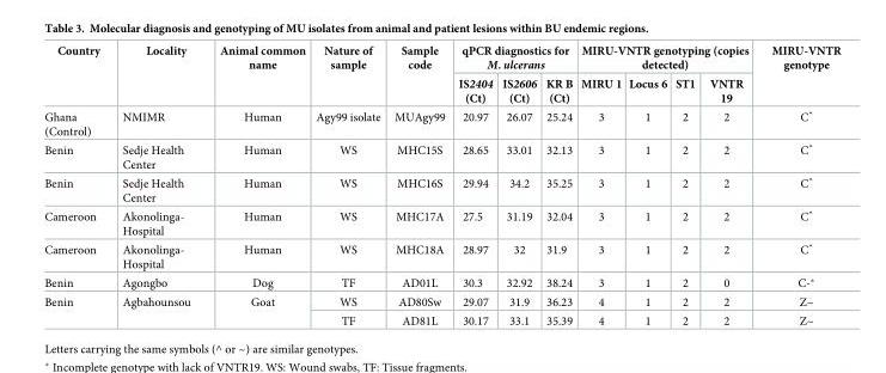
<table><thead><tr><td rowspan="2">Country</td><td rowspan="2">Locality</td><td rowspan="2">Animal common name</td><td rowspan="2">Nature of sample</td><td rowspan="2">Sample code</td><td colspan="3">qPCR diagnostics for M. ulcerans</td><td colspan="4">MIRU-VNTR genotyping (copies detected)</td><td rowspan="2">MIRU-VNTR genotype</td></tr><tr><td>IS2404 (Ct)</td><td>IS2606 (Ct)</td><td>KR B (Ct)</td><td>MIRU 1</td><td>Locus 6</td><td>ST1</td><td>VNTR 19</td></tr></thead><tbody><tr><td>Ghana (Control)</td><td>NMIMR</td><td>Human</td><td>Agy99 isolate</td><td>MUAgy99</td><td>20.97</td><td>26.07</td><td>25.24</td><td>3</td><td>1</td><td>2</td><td>2</td><td>Cˆ</td></tr><tr><td>Benin</td><td>Sedje Health Center</td><td>Human</td><td>WS</td><td>MHC15S</td><td>28.65</td><td>33.01</td><td>32.13</td><td>3</td><td>1</td><td>2</td><td>2</td><td>Cˆ</td></tr><tr><td>Benin</td><td>Sedje Health Center</td><td>Human</td><td>WS</td><td>MHC16S</td><td>29.94</td><td>34.2</td><td>35.25</td><td>3</td><td>1</td><td>2</td><td>2</td><td>Cˆ</td></tr><tr><td>Cameroon</td><td>Akonolinga- Hospital</td><td>Human</td><td>WS</td><td>MHC17A</td><td>27.5</td><td>31.19</td><td>32.04</td><td>3</td><td>1</td><td>2</td><td>2</td><td>Cˆ</td></tr><tr><td>Cameroon</td><td>Akonolinga- Hospital</td><td>Human</td><td>WS</td><td>MHC18A</td><td>28.97</td><td>32</td><td>31.9</td><td>3</td><td>1</td><td>2</td><td>2</td><td>Cˆ</td></tr><tr><td>Benin</td><td>Agongbo</td><td>Dog</td><td>TF</td><td>AD01L</td><td>30.3</td><td>32.92</td><td>38.24</td><td>3</td><td>1</td><td>2</td><td>0</td><td>C-*</td></tr><tr><td rowspan="2">Benin</td><td rowspan="2">Agbahounsou</td><td rowspan="2">Goat</td><td>WS</td><td>AD80Sw</td><td>29.07</td><td>31.9</td><td>36.23</td><td>4</td><td>1</td><td>2</td><td>2</td><td>Z~</td></tr><tr><td>TF</td><td>AD81L</td><td>30.17</td><td>33.1</td><td>35.39</td><td>4</td><td>1</td><td>2</td><td>2</td><td>Z~</td></tr></tbody></table>